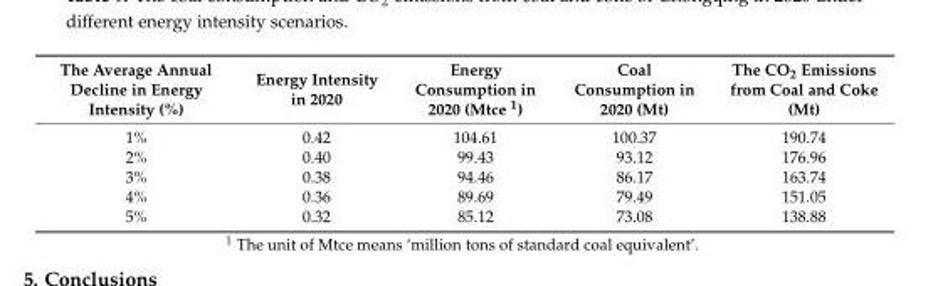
<table><thead><tr><td>The Average Annual Decline in Energy Intensity (%)</td><td>Energy Intensity in 2020</td><td>Energy Consumption in 2020 (Mtce <sup>1</sup>)</td><td>Coal Consumption in 2020 (Mt)</td><td>The CO<sub>2</sub> Emissions from Coal and Coke (Mt)</td></tr></thead><tbody><tr><td>1%</td><td>0.42</td><td>104.61</td><td>100.37</td><td>190.74</td></tr><tr><td>2%</td><td>0.40</td><td>99.43</td><td>93.12</td><td>176.96</td></tr><tr><td>3%</td><td>0.38</td><td>94.46</td><td>86.17</td><td>163.74</td></tr><tr><td>4%</td><td>0.36</td><td>89.69</td><td>79.49</td><td>151.05</td></tr><tr><td>5%</td><td>0.32</td><td>85.12</td><td>73.08</td><td>138.88</td></tr></tbody></table>